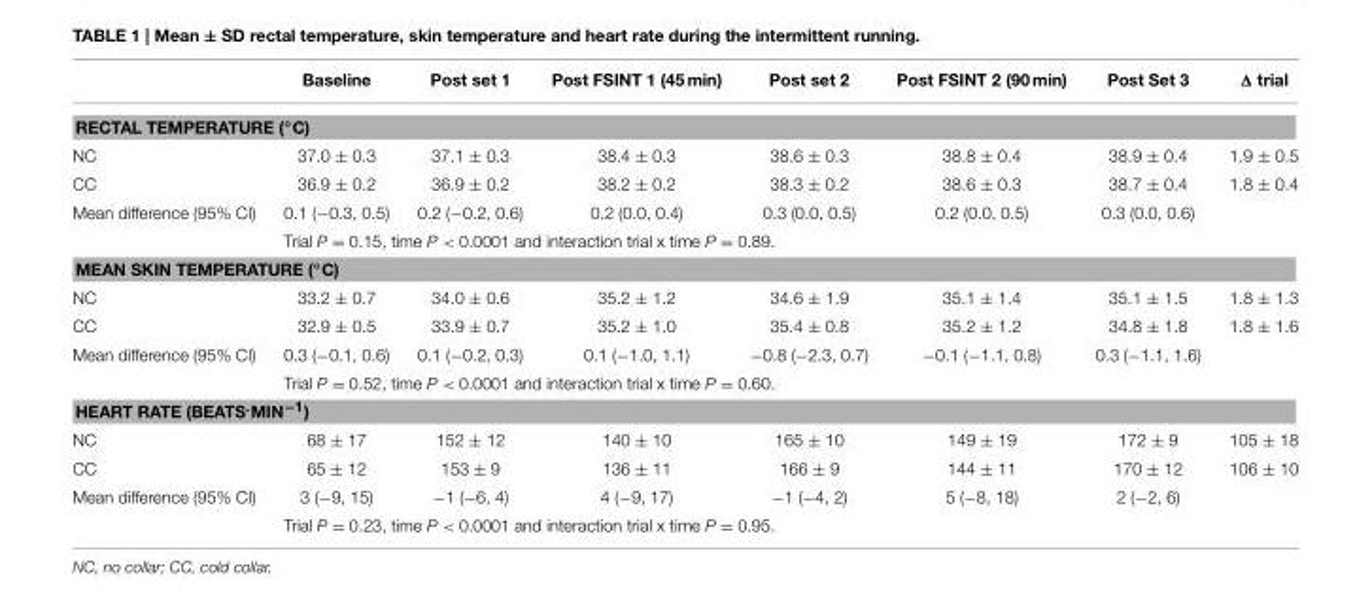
<table><thead><tr><td></td><td>Baseline</td><td>Post set 1</td><td>Post FSINT 1 (45 min)</td><td>Post set 2</td><td>Post FSINT 2 (90 min)</td><td>Post Set 3</td><td>Δ trial</td></tr></thead><tbody><tr><td colspan="8">RECTAL TEMPERATURE (◦C)</td></tr><tr><td>NC</td><td>37.0 ± 0.3</td><td>37.1 ± 0.3</td><td>38.4 ± 0.3</td><td>38.6 ± 0.3</td><td>38.8 ± 0.4</td><td>38.9 ± 0.4</td><td>1.9 ± 0.5</td></tr><tr><td>CC</td><td>36.9 ± 0.2</td><td>36.9 ± 0.2</td><td>38.2 ± 0.2</td><td>38.3 ± 0.2</td><td>38.6 ± 0.3</td><td>38.7 ± 0.4</td><td>1.8 ± 0.4</td></tr><tr><td rowspan="2">Mean difference (95% CI)</td><td>0.1 (−0.3, 0.5)</td><td>0.2 (−0.2, 0.6)</td><td>0.2 (0.0, 0.4)</td><td>0.3 (0.0, 0.5)</td><td>0.2 (0.0, 0.5)</td><td>0.3 (0.0, 0.6)</td><td></td></tr><tr><td colspan="7">Trial P = 0.15, time P &lt; 0.0001 and interaction trial x time P = 0.89.</td></tr><tr><td colspan="8">MEAN SKIN TEMPERATURE (◦C)</td></tr><tr><td>NC</td><td>33.2 ± 0.7</td><td>34.0 ± 0.6</td><td>35.2 ± 1.2</td><td>34.6 ± 1.9</td><td>35.1 ± 1.4</td><td>35.1 ± 1.5</td><td>1.8 ± 1.3</td></tr><tr><td>CC</td><td>32.9 ± 0.5</td><td>33.9 ± 0.7</td><td>35.2 ± 1.0</td><td>35.4 ± 0.8</td><td>35.2 ± 1.2</td><td>34.8 ± 1.8</td><td>1.8 ± 1.6</td></tr><tr><td rowspan="2">Mean difference (95% CI)</td><td>0.3 (−0.1, 0.6)</td><td>0.1 (−0.2, 0.3)</td><td>0.1 (−1.0, 1.1)</td><td>−0.8 (−2.3, 0.7)</td><td>−0.1 (−1.1, 0.8)</td><td>0.3 (−1.1, 1.6)</td><td></td></tr><tr><td colspan="7">Trial P = 0.52, time P &lt; 0.0001 and interaction trial x time P = 0.60.</td></tr><tr><td colspan="8">HEART RATE (BEATS.MIN−1)</td></tr><tr><td>NC</td><td>68 ± 17</td><td>152 ± 12</td><td>140 ± 10</td><td>165 ± 10</td><td>149 ± 19</td><td>172 ± 9</td><td>105 ± 18</td></tr><tr><td>CC</td><td>65 ± 12</td><td>153 ± 9</td><td>136 ± 11</td><td>166 ± 9</td><td>144 ± 11</td><td>170 ± 12</td><td>106 ± 10</td></tr><tr><td rowspan="2">Mean difference (95% CI)</td><td>3 (−9, 15)</td><td>−1 (−6, 4)</td><td>4 (−9, 17)</td><td>−1 (−4, 2)</td><td>5 (−8, 18)</td><td>2 (−2, 6)</td><td></td></tr><tr><td colspan="7">Trial P = 0.23, time P &lt; 0.0001 and interaction trial x time P = 0.95.</td></tr></tbody></table>